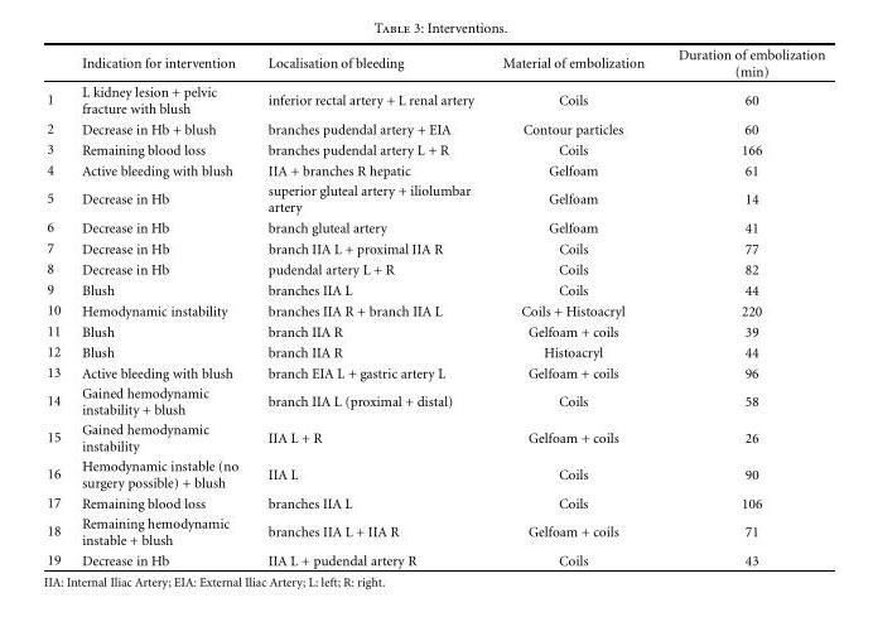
<table><thead><tr><td></td><td>Indication for intervention</td><td>Localisation of bleeding</td><td>Material of embolization</td><td>Duration of embolization (min)</td></tr></thead><tbody><tr><td>1</td><td>L kidney lesion + pelvic fracture with blush</td><td>inferior rectal artery + L renal artery</td><td>Coils</td><td>60</td></tr><tr><td>2</td><td>Decrease in Hb + blush</td><td>branches pudendal artery + EIA</td><td>Contour particles</td><td>60</td></tr><tr><td>3</td><td>Remaining blood loss</td><td>branches pudendal artery L + R</td><td>Coils</td><td>166</td></tr><tr><td>4</td><td>Active bleeding with blush</td><td>IIA + branches R hepatic</td><td>Gelfoam</td><td>61</td></tr><tr><td>5</td><td>Decrease in Hb</td><td>superior gluteal artery + iliolumbar artery</td><td>Gelfoam</td><td>14</td></tr><tr><td>6</td><td>Decrease in Hb</td><td>branch gluteal artery</td><td>Gelfoam</td><td>41</td></tr><tr><td>7</td><td>Decrease in Hb</td><td>branch IIA L + proximal IIA R</td><td>Coils</td><td>77</td></tr><tr><td>8</td><td>Decrease in Hb</td><td>pudendal artery L + R</td><td>Coils</td><td>82</td></tr><tr><td>9</td><td>Blush</td><td>branches IIA L</td><td>Coils</td><td>44</td></tr><tr><td>10</td><td>Hemodynamic instability</td><td>branches IIA R + branch IIA L</td><td>Coils + Histoacryl</td><td>220</td></tr><tr><td>11</td><td>Blush</td><td>branch IIA R</td><td>Gelfoam + coils</td><td>39</td></tr><tr><td>12</td><td>Blush</td><td>branch IIA R</td><td>Histoacryl</td><td>44</td></tr><tr><td>13</td><td>Active bleeding with blush</td><td>branch EIA L + gastric artery L</td><td>Gelfoam + coils</td><td>96</td></tr><tr><td>14</td><td>Gained hemodynamic instability + blush</td><td>branch IIA L (proximal + distal)</td><td>Coils</td><td>58</td></tr><tr><td>15</td><td>Gained hemodynamic instability</td><td>IIA L + R</td><td>Gelfoam + coils</td><td>26</td></tr><tr><td>16</td><td>Hemodynamic instable (no surgery possible) + blush</td><td>IIA L</td><td>Coils</td><td>90</td></tr><tr><td>17</td><td>Remaining blood loss</td><td>branches IIA L</td><td>Coils</td><td>106</td></tr><tr><td>18</td><td>Remaining hemodynamic instable + blush</td><td>branches IIA L + IIA R</td><td>Gelfoam + coils</td><td>71</td></tr><tr><td>19</td><td>Decrease in Hb</td><td>IIA L + pudendal artery R</td><td>Coils</td><td>43</td></tr></tbody></table>